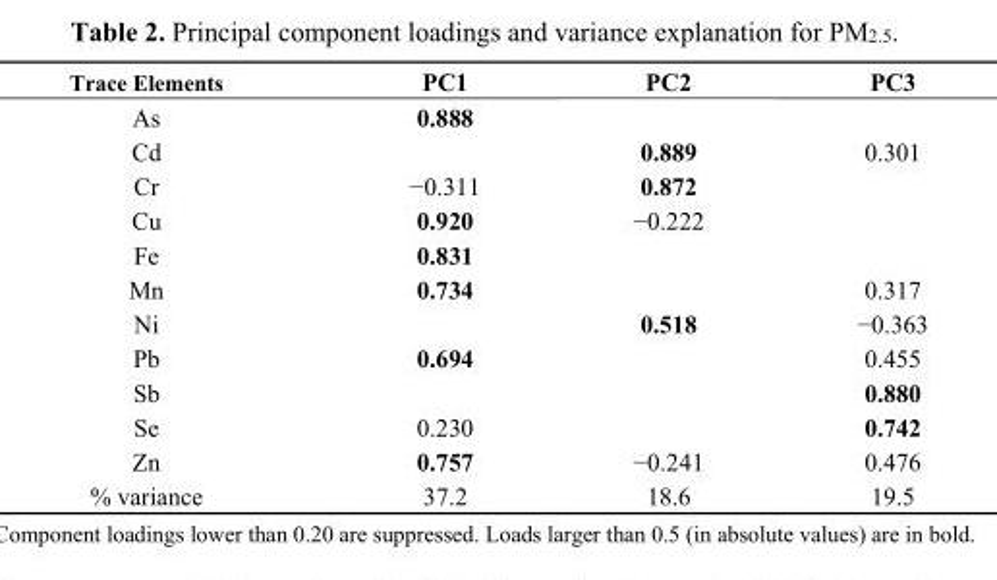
<table><thead><tr><td>Trace Elements</td><td>PC1</td><td>PC2</td><td>PC3</td></tr></thead><tbody><tr><td>As</td><td>0.888</td><td></td><td></td></tr><tr><td>Cd</td><td></td><td>0.889</td><td>0.301</td></tr><tr><td>Cr</td><td>−0.311</td><td>0.872</td><td></td></tr><tr><td>Cu</td><td>0.920</td><td>−0.222</td><td></td></tr><tr><td>Fe</td><td>0.831</td><td></td><td></td></tr><tr><td>Mn</td><td>0.734</td><td></td><td>0.317</td></tr><tr><td>Ni</td><td></td><td>0.518</td><td>−0.363</td></tr><tr><td>Pb</td><td>0.694</td><td></td><td>0.455</td></tr><tr><td>Sb</td><td></td><td></td><td>0.880</td></tr><tr><td>Se</td><td>0.230</td><td></td><td>0.742</td></tr><tr><td>Zn</td><td>0.757</td><td>−0.241</td><td>0.476</td></tr><tr><td>% variance</td><td>37.2</td><td>18.6</td><td>19.5</td></tr></tbody></table>